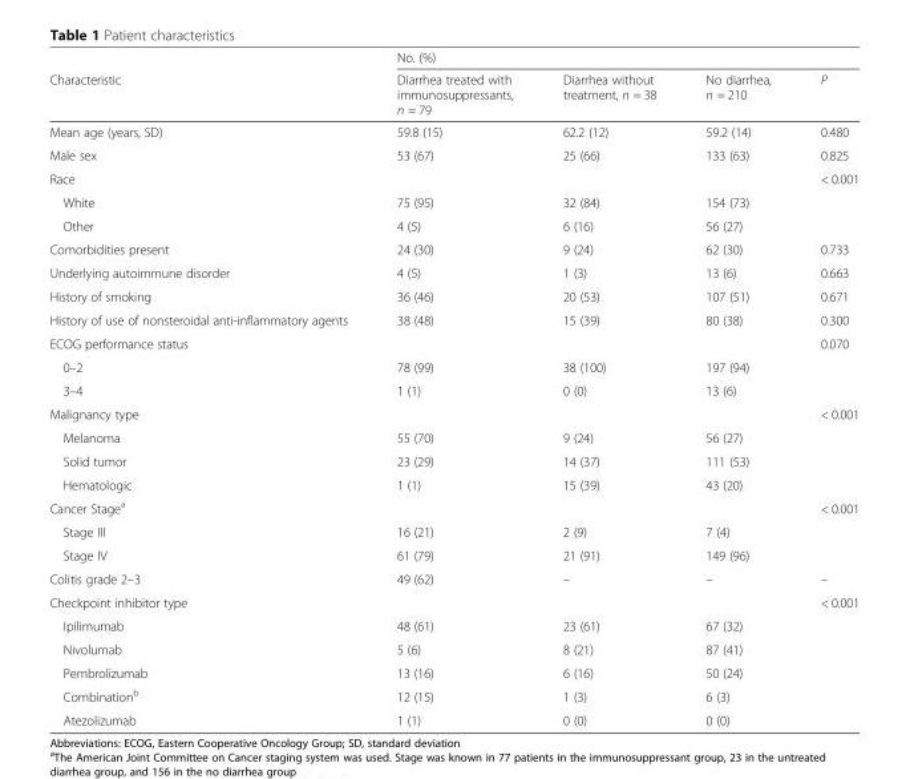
<table><thead><tr><td rowspan="2">Characteristic</td><td colspan="4">No. (%)</td></tr><tr><td>Diarrhea treated with immunosuppressants, n = 79</td><td>Diarrhea without treatment, n = 38</td><td>No diarrhea, n = 210</td><td>P</td></tr></thead><tbody><tr><td>Mean age (years, SD)</td><td>59.8 (15)</td><td>62.2 (12)</td><td>59.2 (14)</td><td>0.480</td></tr><tr><td>Male sex</td><td>53 (67)</td><td>25 (66)</td><td>133 (63)</td><td>0.825</td></tr><tr><td>Race</td><td></td><td></td><td></td><td>&lt; 0.001</td></tr><tr><td>White</td><td>75 (95)</td><td>32 (84)</td><td>154 (73)</td><td></td></tr><tr><td>Other</td><td>4 (5)</td><td>6 (16)</td><td>56 (27)</td><td></td></tr><tr><td>Comorbidities present</td><td>24 (30)</td><td>9 (24)</td><td>62 (30)</td><td>0.733</td></tr><tr><td>Underlying autoimmune disorder</td><td>4 (5)</td><td>1 (3)</td><td>13 (6)</td><td>0.663</td></tr><tr><td>History of smoking</td><td>36 (46)</td><td>20 (53)</td><td>107 (51)</td><td>0.671</td></tr><tr><td>History of use of nonsteroidal anti-inflammatory agents</td><td>38 (48)</td><td>15 (39)</td><td>80 (38)</td><td>0.300</td></tr><tr><td>ECOG performance status</td><td></td><td></td><td></td><td>0.070</td></tr><tr><td>0–2</td><td>78 (99)</td><td>38 (100)</td><td>197 (94)</td><td></td></tr><tr><td>3–4</td><td>1 (1)</td><td>0 (0)</td><td>13 (6)</td><td></td></tr><tr><td>Malignancy type</td><td></td><td></td><td></td><td>&lt; 0.001</td></tr><tr><td>Melanoma</td><td>55 (70)</td><td>9 (24)</td><td>56 (27)</td><td></td></tr><tr><td>Solid tumor</td><td>23 (29)</td><td>14 (37)</td><td>111 (53)</td><td></td></tr><tr><td>Hematologic</td><td>1 (1)</td><td>15 (39)</td><td>43 (20)</td><td></td></tr><tr><td>Cancer Stage<sup>a</sup></td><td></td><td></td><td></td><td>&lt; 0.001</td></tr><tr><td>Stage III</td><td>16 (21)</td><td>2 (9)</td><td>7 (4)</td><td></td></tr><tr><td>Stage IV</td><td>61 (79)</td><td>21 (91)</td><td>149 (96)</td><td></td></tr><tr><td>Colitis grade 2–3</td><td>49 (62)</td><td>–</td><td>–</td><td>–</td></tr><tr><td>Checkpoint inhibitor type</td><td></td><td></td><td></td><td>&lt; 0.001</td></tr><tr><td>Ipilimumab</td><td>48 (61)</td><td>23 (61)</td><td>67 (32)</td><td></td></tr><tr><td>Nivolumab</td><td>5 (6)</td><td>8 (21)</td><td>87 (41)</td><td></td></tr><tr><td>Pembrolizumab</td><td>13 (16)</td><td>6 (16)</td><td>50 (24)</td><td></td></tr><tr><td>Combination<sup>b</sup></td><td>12 (15)</td><td>1 (3)</td><td>6 (3)</td><td></td></tr><tr><td>Atezolizumab</td><td>1 (1)</td><td>0 (0)</td><td>0 (0)</td><td></td></tr></tbody></table>